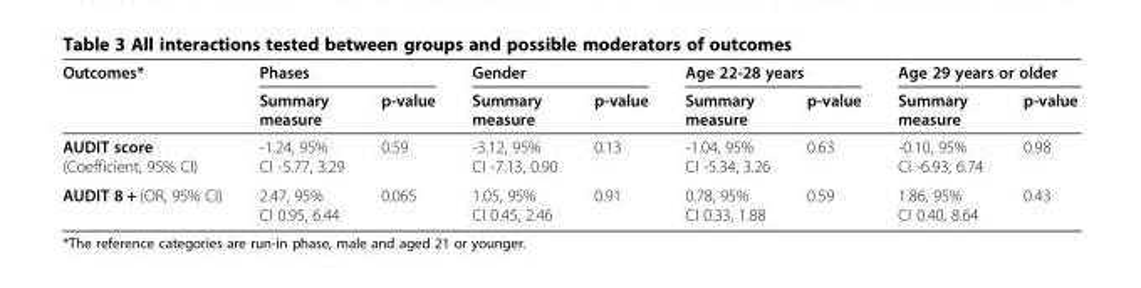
<table><thead><tr><td rowspan="2">Outcomes*</td><td colspan="2">Phases</td><td colspan="2">Gender</td><td colspan="2">Age 22-28 years</td><td colspan="2">Age 29 years or older</td></tr><tr><td>Summary measure</td><td>p-value</td><td>Summary measure</td><td>p-value</td><td>Summary measure</td><td>p-value</td><td>Summary measure</td><td>p-value</td></tr></thead><tbody><tr><td>AUDIT score (Coefficient, 95% CI)</td><td>-1.24, 95% CI -5.77, 3.29</td><td>0.59</td><td>-3.12, 95% CI -7.13, 0.90</td><td>0.13</td><td>-1.04, 95% CI -5.34, 3.26</td><td>0.63</td><td>-0.10, 95% CI -6.93, 6.74</td><td>0.98</td></tr><tr><td>AUDIT 8 + (OR, 95% CI)</td><td>2.47, 95% CI 0.95, 6.44</td><td>0.065</td><td>1.05, 95% CI 0.45, 2.46</td><td>0.91</td><td>0.78, 95% CI 0.33, 1.88</td><td>0.59</td><td>1.86, 95% CI 0.40, 8.64</td><td>0.43</td></tr></tbody></table>